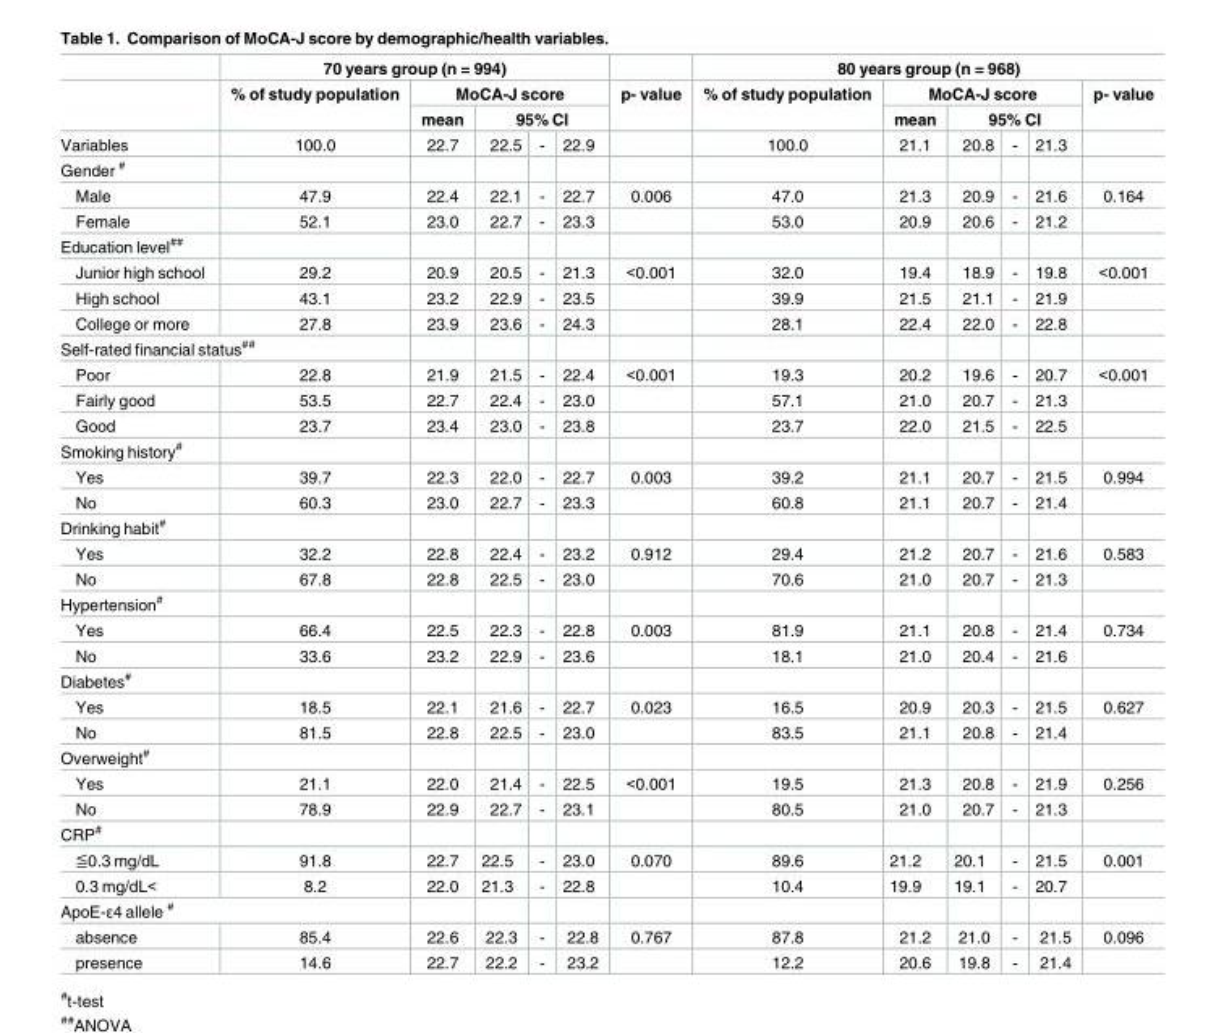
<table><thead><tr><td rowspan="4">Variables</td><td colspan="5">70 years group (n = 994)</td><td rowspan="4">p- value</td><td colspan="6">80 years group (n = 968)</td></tr><tr><td rowspan="3">% of study population 100.0</td><td colspan="4">MoCA-J score</td><td rowspan="3">% of study population 100.0</td><td colspan="4">MoCA-J score</td><td rowspan="3">p- value</td></tr><tr><td rowspan="2">mean 22.7</td><td colspan="3">95% CI</td><td rowspan="2">mean 21.1</td><td colspan="3">95% CI</td></tr><tr><td>22.5</td><td>-</td><td>22.9</td><td>20.8</td><td>-</td><td>21.3</td></tr></thead><tbody><tr><td colspan="13">Gender <sup>#</sup></td></tr><tr><td>Male</td><td>47.9</td><td>22.4</td><td>22.1</td><td>-</td><td>22.7</td><td>0.006</td><td>47.0</td><td>21.3</td><td>20.9</td><td>-</td><td>21.6</td><td>0.164</td></tr><tr><td>Female</td><td>52.1</td><td>23.0</td><td>22.7</td><td>-</td><td>23.3</td><td></td><td>53.0</td><td>20.9</td><td>20.6</td><td>-</td><td>21.2</td><td></td></tr><tr><td colspan="13">Education level<sup>##</sup></td></tr><tr><td>Junior high school</td><td>29.2</td><td>20.9</td><td>20.5</td><td>-</td><td>21.3</td><td>&lt;0.001</td><td>32.0</td><td>19.4</td><td>18.9</td><td>-</td><td>19.8</td><td>&lt;0.001</td></tr><tr><td>High school</td><td>43.1</td><td>23.2</td><td>22.9</td><td>-</td><td>23.5</td><td></td><td>39.9</td><td>21.5</td><td>21.1</td><td>-</td><td>21.9</td><td></td></tr><tr><td>College or more</td><td>27.8</td><td>23.9</td><td>23.6</td><td>-</td><td>24.3</td><td></td><td>28.1</td><td>22.4</td><td>22.0</td><td>-</td><td>22.8</td><td></td></tr><tr><td colspan="13">Self-rated financial status<sup>##</sup></td></tr><tr><td>Poor</td><td>22.8</td><td>21.9</td><td>21.5</td><td>-</td><td>22.4</td><td>&lt;0.001</td><td>19.3</td><td>20.2</td><td>19.6</td><td>-</td><td>20.7</td><td>&lt;0.001</td></tr><tr><td>Fairly good</td><td>53.5</td><td>22.7</td><td>22.4</td><td>-</td><td>23.0</td><td></td><td>57.1</td><td>21.0</td><td>20.7</td><td>-</td><td>21.3</td><td></td></tr><tr><td>Good</td><td>23.7</td><td>23.4</td><td>23.0</td><td>-</td><td>23.8</td><td></td><td>23.7</td><td>22.0</td><td>21.5</td><td>-</td><td>22.5</td><td></td></tr><tr><td colspan="13">Smoking history<sup>#</sup></td></tr><tr><td>Yes</td><td>39.7</td><td>22.3</td><td>22.0</td><td>-</td><td>22.7</td><td>0.003</td><td>39.2</td><td>21.1</td><td>20.7</td><td>-</td><td>21.5</td><td>0.994</td></tr><tr><td>No</td><td>60.3</td><td>23.0</td><td>22.7</td><td>-</td><td>23.3</td><td></td><td>60.8</td><td>21.1</td><td>20.7</td><td>-</td><td>21.4</td><td></td></tr><tr><td colspan="13">Drinking habit<sup>#</sup></td></tr><tr><td>Yes</td><td>32.2</td><td>22.8</td><td>22.4</td><td>-</td><td>23.2</td><td>0.912</td><td>29.4</td><td>21.2</td><td>20.7</td><td>-</td><td>21.6</td><td>0.583</td></tr><tr><td>No</td><td>67.8</td><td>22.8</td><td>22.5</td><td>-</td><td>23.0</td><td></td><td>70.6</td><td>21.0</td><td>20.7</td><td>-</td><td>21.3</td><td></td></tr><tr><td colspan="13">Hypertension<sup>#</sup></td></tr><tr><td>Yes</td><td>66.4</td><td>22.5</td><td>22.3</td><td>-</td><td>22.8</td><td>0.003</td><td>81.9</td><td>21.1</td><td>20.8</td><td>-</td><td>21.4</td><td>0.734</td></tr><tr><td>No</td><td>33.6</td><td>23.2</td><td>22.9</td><td>-</td><td>23.6</td><td></td><td>18.1</td><td>21.0</td><td>20.4</td><td>-</td><td>21.6</td><td></td></tr><tr><td colspan="13">Diabetes<sup>#</sup></td></tr><tr><td>Yes</td><td>18.5</td><td>22.1</td><td>21.6</td><td>-</td><td>22.7</td><td>0.023</td><td>16.5</td><td>20.9</td><td>20.3</td><td>-</td><td>21.5</td><td>0.627</td></tr><tr><td>No</td><td>81.5</td><td>22.8</td><td>22.5</td><td>-</td><td>23.0</td><td></td><td>83.5</td><td>21.1</td><td>20.8</td><td>-</td><td>21.4</td><td></td></tr><tr><td colspan="13">Overweight<sup>#</sup></td></tr><tr><td>Yes</td><td>21.1</td><td>22.0</td><td>21.4</td><td>-</td><td>22.5</td><td>&lt;0.001</td><td>19.5</td><td>21.3</td><td>20.8</td><td>-</td><td>21.9</td><td>0.256</td></tr><tr><td>No</td><td>78.9</td><td>22.9</td><td>22.7</td><td>-</td><td>23.1</td><td></td><td>80.5</td><td>21.0</td><td>20.7</td><td>-</td><td>21.3</td><td></td></tr><tr><td colspan="13">CRP<sup>#</sup></td></tr><tr><td>≦0.3 mg/dL</td><td>91.8</td><td>22.7</td><td>22.5</td><td>-</td><td>23.0</td><td>0.070</td><td>89.6</td><td>21.2</td><td>20.1</td><td>-</td><td>21.5</td><td>0.001</td></tr><tr><td>0.3 mg/dL&lt;</td><td>8.2</td><td>22.0</td><td>21.3</td><td>-</td><td>22.8</td><td></td><td>10.4</td><td>19.9</td><td>19.1</td><td>-</td><td>20.7</td><td></td></tr><tr><td colspan="13">ApoE-ε4 allele <sup>#</sup></td></tr><tr><td>absence</td><td>85.4</td><td>22.6</td><td>22.3</td><td>-</td><td>22.8</td><td>0.767</td><td>87.8</td><td>21.2</td><td>21.0</td><td>-</td><td>21.5</td><td>0.096</td></tr><tr><td>presence</td><td>14.6</td><td>22.7</td><td>22.2</td><td>-</td><td>23.2</td><td></td><td>12.2</td><td>20.6</td><td>19.8</td><td>-</td><td>21.4</td><td></td></tr></tbody></table>